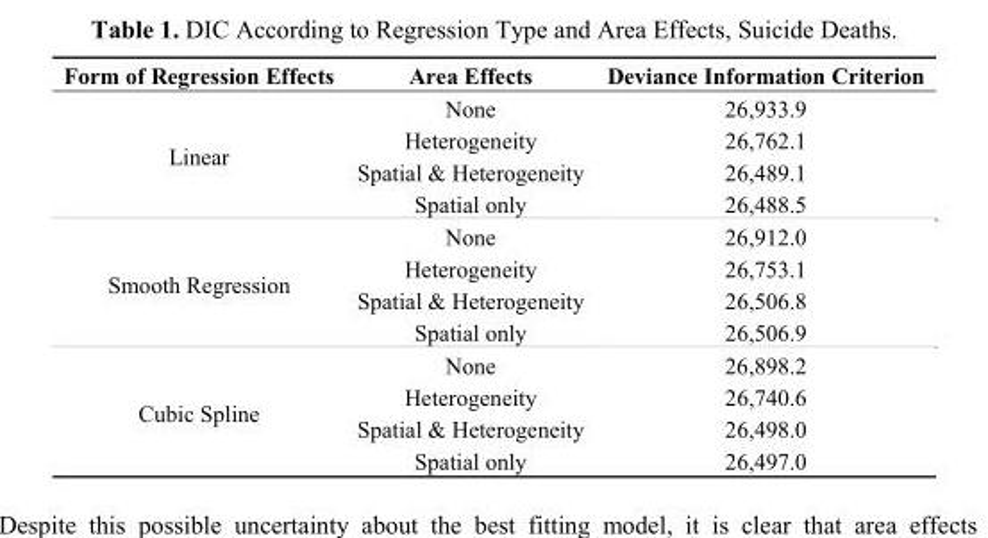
<table><thead><tr><td>Form of Regression Effects</td><td>Area Effects</td><td>Deviance Information Criterion</td></tr></thead><tbody><tr><td rowspan="4">Linear</td><td>None</td><td>26,933.9</td></tr><tr><td>Heterogeneity</td><td>26,762.1</td></tr><tr><td>Spatial &amp; Heterogeneity</td><td>26,489.1</td></tr><tr><td>Spatial only</td><td>26,488.5</td></tr><tr><td rowspan="4">Smooth Regression</td><td>None</td><td>26,912.0</td></tr><tr><td>Heterogeneity</td><td>26,753.1</td></tr><tr><td>Spatial &amp; Heterogeneity</td><td>26,506.8</td></tr><tr><td>Spatial only</td><td>26,506.9</td></tr><tr><td rowspan="4">Cubic Spline</td><td>None</td><td>26,898.2</td></tr><tr><td>Heterogeneity</td><td>26,740.6</td></tr><tr><td>Spatial &amp; Heterogeneity</td><td>26,498.0</td></tr><tr><td>Spatial only</td><td>26,497.0</td></tr></tbody></table>